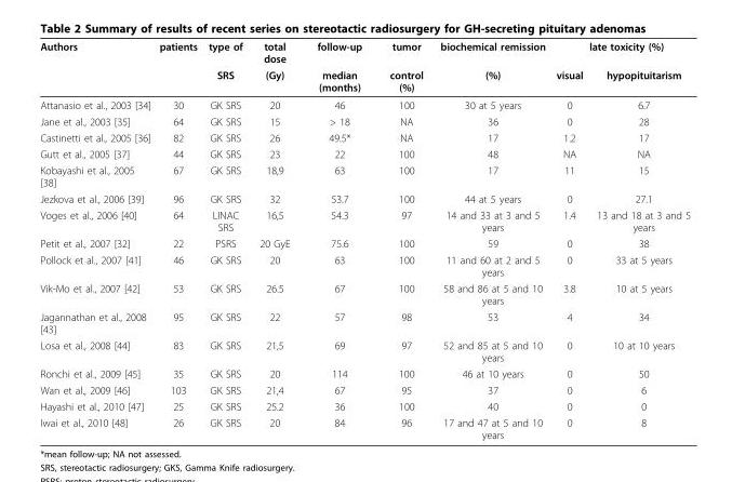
<table><thead><tr><td rowspan="2">Authors</td><td rowspan="2">patients</td><td rowspan="2">type of SRS</td><td rowspan="2">total dose (Gy)</td><td rowspan="2">follow-up median (months)</td><td rowspan="2">tumor control (%)</td><td rowspan="2">biochemical remission (%)</td><td colspan="2">late toxicity (%)</td></tr><tr><td>visual</td><td>hypopituitarism</td></tr></thead><tbody><tr><td>Attanasio et al., 2003 [34]</td><td>30</td><td>GK SRS</td><td>20</td><td>46</td><td>100</td><td>30 at 5 years</td><td>0</td><td>6.7</td></tr><tr><td>Jane et al., 2003 [35]</td><td>64</td><td>GK SRS</td><td>15</td><td>&gt; 18</td><td>NA</td><td>36</td><td>0</td><td>28</td></tr><tr><td>Castinetti et al., 2005 [36]</td><td>82</td><td>GK SRS</td><td>26</td><td>49.5*</td><td>NA</td><td>17</td><td>1.2</td><td>17</td></tr><tr><td>Gutt et al., 2005 [37]</td><td>44</td><td>GK SRS</td><td>23</td><td>22</td><td>100</td><td>48</td><td>NA</td><td>NA</td></tr><tr><td>Kobayashi et al., 2005 [38]</td><td>67</td><td>GK SRS</td><td>18,9</td><td>63</td><td>100</td><td>17</td><td>11</td><td>15</td></tr><tr><td>Jezkova et al., 2006 [39]</td><td>96</td><td>GK SRS</td><td>32</td><td>53.7</td><td>100</td><td>44 at 5 years</td><td>0</td><td>27.1</td></tr><tr><td>Voges et al., 2006 [40]</td><td>64</td><td>LINAC SRS</td><td>16,5</td><td>54.3</td><td>97</td><td>14 and 33 at 3 and 5 years</td><td>1.4</td><td>13 and 18 at 3 and 5 years</td></tr><tr><td>Petit et al., 2007 [32]</td><td>22</td><td>PSRS</td><td>20 GyE</td><td>75.6</td><td>100</td><td>59</td><td>0</td><td>38</td></tr><tr><td>Pollock et al., 2007 [41]</td><td>46</td><td>GK SRS</td><td>20</td><td>63</td><td>100</td><td>11 and 60 at 2 and 5 years</td><td>0</td><td>33 at 5 years</td></tr><tr><td>Vik-Mo et al., 2007 [42]</td><td>53</td><td>GK SRS</td><td>26.5</td><td>67</td><td>100</td><td>58 and 86 at 5 and 10 years</td><td>3.8</td><td>10 at 5 years</td></tr><tr><td>Jagannathan et al., 2008 [43]</td><td>95</td><td>GK SRS</td><td>22</td><td>57</td><td>98</td><td>53</td><td>4</td><td>34</td></tr><tr><td>Losa et al., 2008 [44]</td><td>83</td><td>GK SRS</td><td>21,5</td><td>69</td><td>97</td><td>52 and 85 at 5 and 10 years</td><td>0</td><td>10 at 10 years</td></tr><tr><td>Ronchi et al., 2009 [45]</td><td>35</td><td>GK SRS</td><td>20</td><td>114</td><td>100</td><td>46 at 10 years</td><td>0</td><td>50</td></tr><tr><td>Wan et al., 2009 [46]</td><td>103</td><td>GK SRS</td><td>21,4</td><td>67</td><td>95</td><td>37</td><td>0</td><td>6</td></tr><tr><td>Hayashi et al., 2010 [47]</td><td>25</td><td>GK SRS</td><td>25.2</td><td>36</td><td>100</td><td>40</td><td>0</td><td>0</td></tr><tr><td>Iwai et al., 2010 [48]</td><td>26</td><td>GK SRS</td><td>20</td><td>84</td><td>96</td><td>17 and 47 at 5 and 10 years</td><td>0</td><td>8</td></tr></tbody></table>